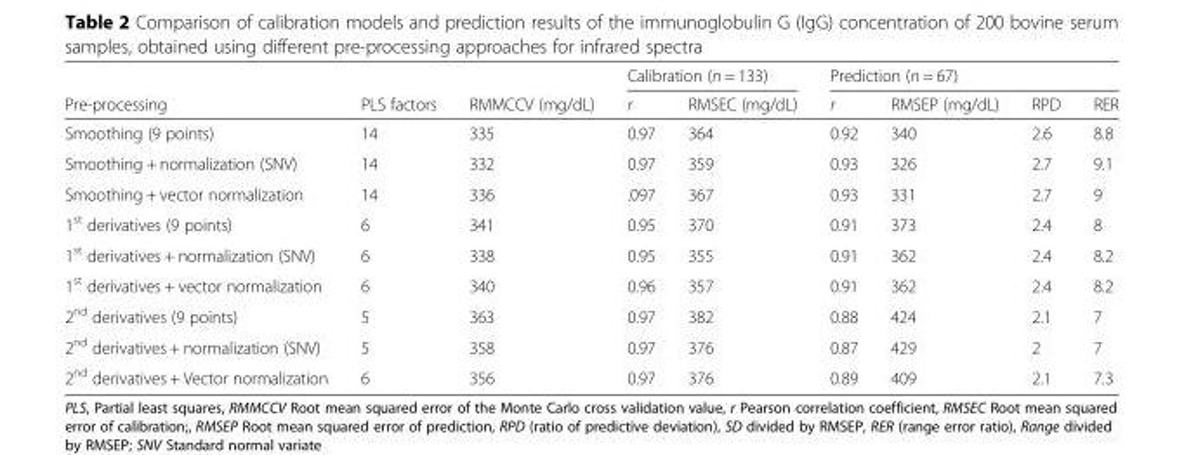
<table><thead><tr><td rowspan="2">Pre-processing</td><td rowspan="2">PLS factors</td><td rowspan="2">RMMCCV (mg/dL)</td><td colspan="2">Calibration (n = 133)</td><td colspan="4">Prediction (n = 67)</td></tr><tr><td>r</td><td>RMSEC (mg/dL)</td><td>r</td><td>RMSEP (mg/dL)</td><td>RPD</td><td>RER</td></tr></thead><tbody><tr><td>Smoothing (9 points)</td><td>14</td><td>335</td><td>0.97</td><td>364</td><td>0.92</td><td>340</td><td>2.6</td><td>8.8</td></tr><tr><td>Smoothing + normalization (SNV)</td><td>14</td><td>332</td><td>0.97</td><td>359</td><td>0.93</td><td>326</td><td>2.7</td><td>9.1</td></tr><tr><td>Smoothing + vector normalization</td><td>14</td><td>336</td><td>.097</td><td>367</td><td>0.93</td><td>331</td><td>2.7</td><td>9</td></tr><tr><td>1<sup>st</sup> derivatives (9 points)</td><td>6</td><td>341</td><td>0.95</td><td>370</td><td>0.91</td><td>373</td><td>2.4</td><td>8</td></tr><tr><td>1<sup>st</sup> derivatives + normalization (SNV)</td><td>6</td><td>338</td><td>0.95</td><td>355</td><td>0.91</td><td>362</td><td>2.4</td><td>8.2</td></tr><tr><td>1<sup>st</sup> derivatives + vector normalization</td><td>6</td><td>340</td><td>0.96</td><td>357</td><td>0.91</td><td>362</td><td>2.4</td><td>8.2</td></tr><tr><td>2<sup>nd</sup> derivatives (9 points)</td><td>5</td><td>363</td><td>0.97</td><td>382</td><td>0.88</td><td>424</td><td>2.1</td><td>7</td></tr><tr><td>2<sup>nd</sup> derivatives + normalization (SNV)</td><td>5</td><td>358</td><td>0.97</td><td>376</td><td>0.87</td><td>429</td><td>2</td><td>7</td></tr><tr><td>2<sup>nd</sup> derivatives + Vector normalization</td><td>6</td><td>356</td><td>0.97</td><td>376</td><td>0.89</td><td>409</td><td>2.1</td><td>7.3</td></tr></tbody></table>